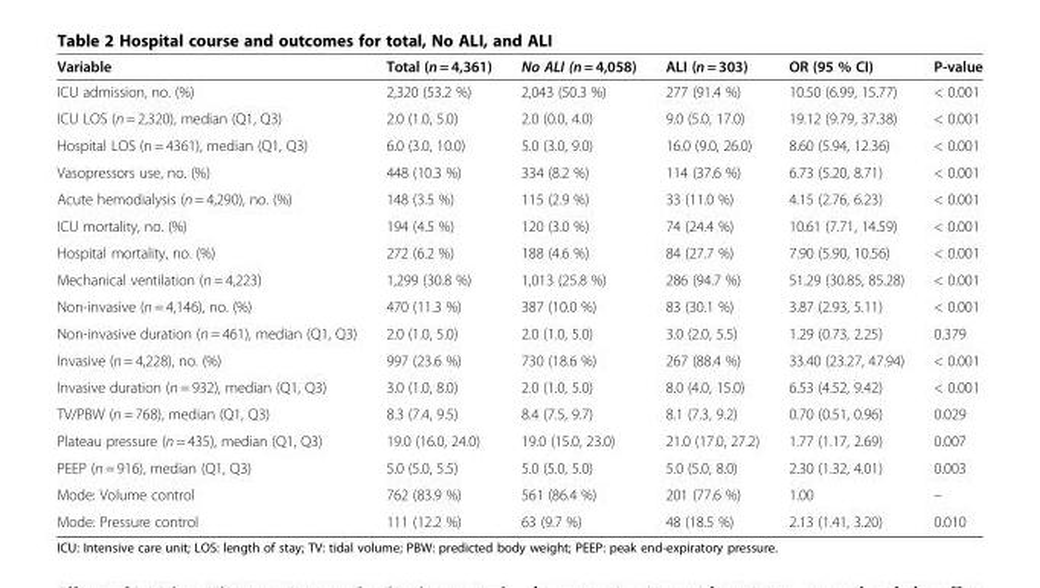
<table><thead><tr><td>Variable</td><td>Total (n = 4,361)</td><td>No ALI (n = 4,058)</td><td>ALI (n = 303)</td><td>OR (95 % CI)</td><td>P-value</td></tr></thead><tbody><tr><td>ICU admission, no. (%)</td><td>2,320 (53.2 %)</td><td>2,043 (50.3 %)</td><td>277 (91.4 %)</td><td>10.50 (6.99, 15.77)</td><td>&lt; 0.001</td></tr><tr><td>ICU LOS (n = 2,320), median (Q1, Q3)</td><td>2.0 (1.0, 5.0)</td><td>2.0 (0.0, 4.0)</td><td>9.0 (5.0, 17.0)</td><td>19.12 (9.79, 37.38)</td><td>&lt; 0.001</td></tr><tr><td>Hospital LOS (n = 4361), median (Q1, Q3)</td><td>6.0 (3.0, 10.0)</td><td>5.0 (3.0, 9.0)</td><td>16.0 (9.0, 26.0)</td><td>8.60 (5.94, 12.36)</td><td>&lt; 0.001</td></tr><tr><td>Vasopressors use, no. (%)</td><td>448 (10.3 %)</td><td>334 (8.2 %)</td><td>114 (37.6 %)</td><td>6.73 (5.20, 8.71)</td><td>&lt; 0.001</td></tr><tr><td>Acute hemodialysis (n = 4,290), no. (%)</td><td>148 (3.5 %)</td><td>115 (2.9 %)</td><td>33 (11.0 %)</td><td>4.15 (2.76, 6.23)</td><td>&lt; 0.001</td></tr><tr><td>ICU mortality, no. (%)</td><td>194 (4.5 %)</td><td>120 (3.0 %)</td><td>74 (24.4 %)</td><td>10.61 (7.71, 14.59)</td><td>&lt; 0.001</td></tr><tr><td>Hospital mortality, no. (%)</td><td>272 (6.2 %)</td><td>188 (4.6 %)</td><td>84 (27.7 %)</td><td>7.90 (5.90, 10.56)</td><td>&lt; 0.001</td></tr><tr><td>Mechanical ventilation (n = 4,223)</td><td>1,299 (30.8 %)</td><td>1,013 (25.8 %)</td><td>286 (94.7 %)</td><td>51.29 (30.85, 85.28)</td><td>&lt; 0.001</td></tr><tr><td>Non-invasive (n = 4,146), no. (%)</td><td>470 (11.3 %)</td><td>387 (10.0 %)</td><td>83 (30.1 %)</td><td>3.87 (2.93, 5.11)</td><td>&lt; 0.001</td></tr><tr><td>Non-invasive duration (n = 461), median (Q1, Q3)</td><td>2.0 (1.0, 5.0)</td><td>2.0 (1.0, 5.0)</td><td>3.0 (2.0, 5.5)</td><td>1.29 (0.73, 2.25)</td><td>0.379</td></tr><tr><td>Invasive (n = 4,228), no. (%)</td><td>997 (23.6 %)</td><td>730 (18.6 %)</td><td>267 (88.4 %)</td><td>33.40 (23.27, 47.94)</td><td>&lt; 0.001</td></tr><tr><td>Invasive duration (n = 932), median (Q1, Q3)</td><td>3.0 (1.0, 8.0)</td><td>2.0 (1.0, 5.0)</td><td>8.0 (4.0, 15.0)</td><td>6.53 (4.52, 9.42)</td><td>&lt; 0.001</td></tr><tr><td>TV/PBW (n = 768), median (Q1, Q3)</td><td>8.3 (7.4, 9.5)</td><td>8.4 (7.5, 9.7)</td><td>8.1 (7.3, 9.2)</td><td>0.70 (0.51, 0.96)</td><td>0.029</td></tr><tr><td>Plateau pressure (n = 435), median (Q1, Q3)</td><td>19.0 (16.0, 24.0)</td><td>19.0 (15.0, 23.0)</td><td>21.0 (17.0, 27.2)</td><td>1.77 (1.17, 2.69)</td><td>0.007</td></tr><tr><td>PEEP (n = 916), median (Q1, Q3)</td><td>5.0 (5.0, 5.5)</td><td>5.0 (5.0, 5.0)</td><td>5.0 (5.0, 8.0)</td><td>2.30 (1.32, 4.01)</td><td>0.003</td></tr><tr><td>Mode: Volume control</td><td>762 (83.9 %)</td><td>561 (86.4 %)</td><td>201 (77.6 %)</td><td>1.00</td><td>–</td></tr><tr><td>Mode: Pressure control</td><td>111 (12.2 %)</td><td>63 (9.7 %)</td><td>48 (18.5 %)</td><td>2.13 (1.41, 3.20)</td><td>0.010</td></tr></tbody></table>